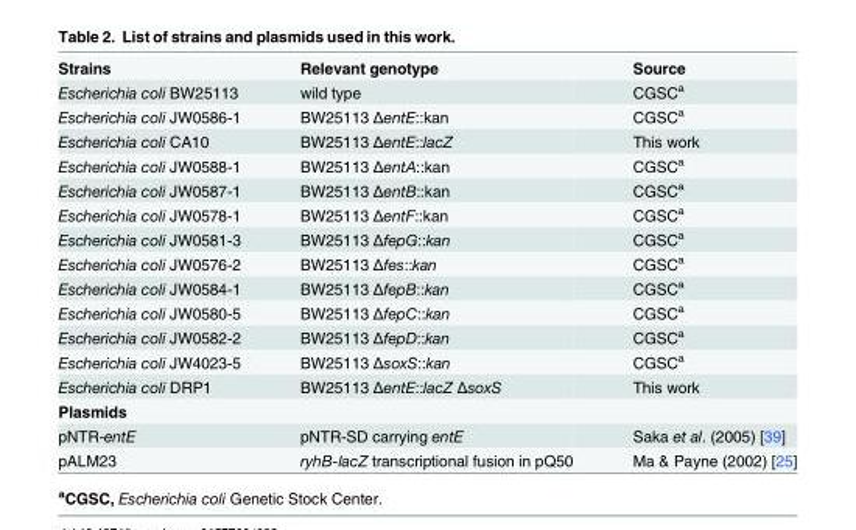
<table><tbody><tr><td>Strains</td><td>Relevant genotype</td><td>Source</td></tr><tr><td>Escherichia coli BW25113</td><td>wild type</td><td>CGSC<sup>a</sup></td></tr><tr><td>Escherichia coli JW0586-1</td><td>BW25113 ΔentE::kan</td><td>CGSC<sup>a</sup></td></tr><tr><td>Escherichia coli CA10</td><td>BW25113 ΔentE::lacZ</td><td>This work</td></tr><tr><td>Escherichia coli JW0588-1</td><td>BW25113 ΔentA::kan</td><td>CGSC<sup>a</sup></td></tr><tr><td>Escherichia coli JW0587-1</td><td>BW25113 ΔentB::kan</td><td>CGSC<sup>a</sup></td></tr><tr><td>Escherichia coli JW0578-1</td><td>BW25113 ΔentF::kan</td><td>CGSC<sup>a</sup></td></tr><tr><td>Escherichia coli JW0581-3</td><td>BW25113 ΔfepG::kan</td><td>CGSC<sup>a</sup></td></tr><tr><td>Escherichia coli JW0576-2</td><td>BW25113 Δfes::kan</td><td>CGSC<sup>a</sup></td></tr><tr><td>Escherichia coli JW0584-1</td><td>BW25113 ΔfepB::kan</td><td>CGSC<sup>a</sup></td></tr><tr><td>Escherichia coli JW0580-5</td><td>BW25113 ΔfepC::kan</td><td>CGSC<sup>a</sup></td></tr><tr><td>Escherichia coli JW0582-2</td><td>BW25113 ΔfepD::kan</td><td>CGSC<sup>a</sup></td></tr><tr><td>Escherichia coli JW4023-5</td><td>BW25113 ΔsoxS::kan</td><td>CGSC<sup>a</sup></td></tr><tr><td>Escherichia coli DRP1</td><td>BW25113 ΔentE::lacZ ΔsoxS</td><td>This work</td></tr><tr><td colspan="3">Plasmids</td></tr><tr><td>pNTR-entE</td><td>pNTR-SD carrying entE</td><td>Saka et al. (2005) [39]</td></tr><tr><td>pALM23</td><td>ryhB-lacZ transcriptional fusion in pQ50</td><td>Ma &amp; Payne (2002) [25]</td></tr></tbody></table>